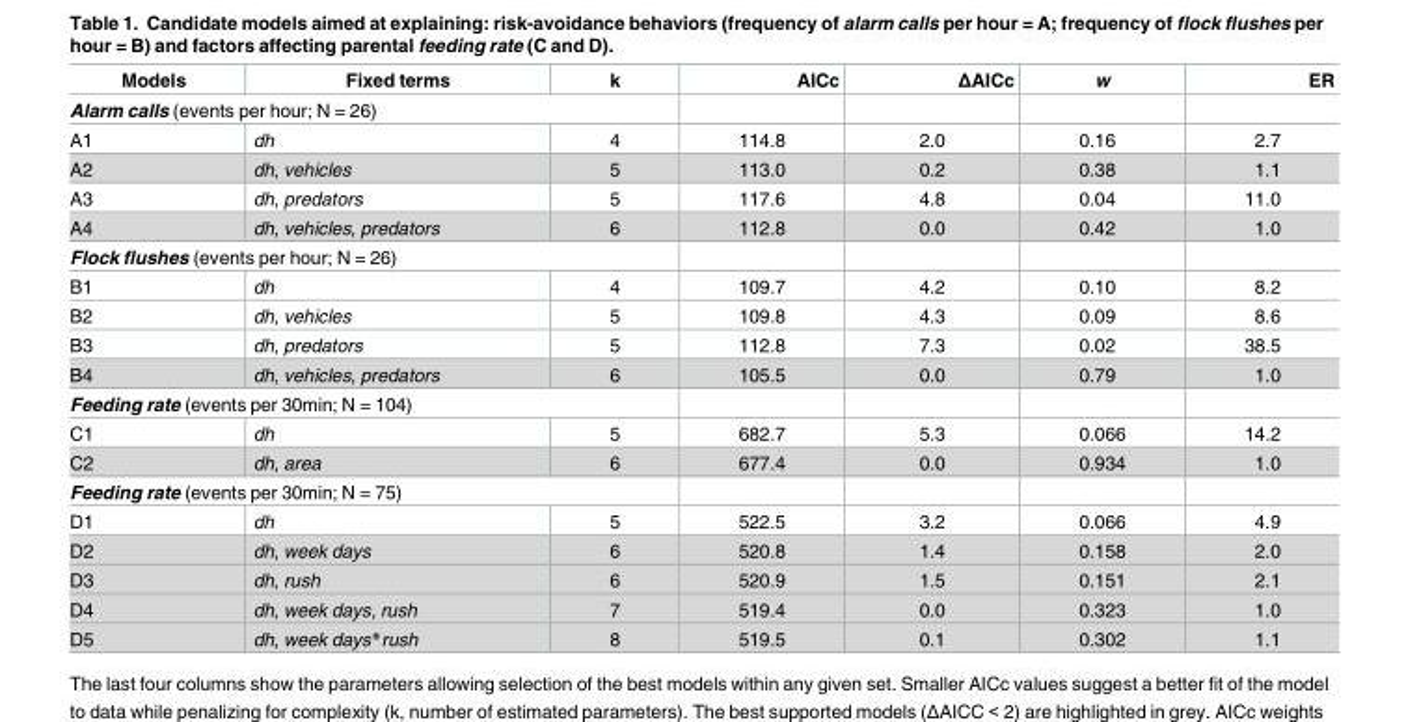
<table><thead><tr><td>Models</td><td>Fixed terms</td><td>k</td><td>AICc</td><td>ΔAICc</td><td>w</td><td>ER</td></tr></thead><tbody><tr><td colspan="7">Alarm calls (events per hour; N = 26)</td></tr><tr><td>A1</td><td>dh</td><td>4</td><td>114.8</td><td>2.0</td><td>0.16</td><td>2.7</td></tr><tr><td>A2</td><td>dh, vehicles</td><td>5</td><td>113.0</td><td>0.2</td><td>0.38</td><td>1.1</td></tr><tr><td>A3</td><td>dh, predators</td><td>5</td><td>117.6</td><td>4.8</td><td>0.04</td><td>11.0</td></tr><tr><td>A4</td><td>dh, vehicles, predators</td><td>6</td><td>112.8</td><td>0.0</td><td>0.42</td><td>1.0</td></tr><tr><td colspan="7">Flock flushes (events per hour; N = 26)</td></tr><tr><td>B1</td><td>dh</td><td>4</td><td>109.7</td><td>4.2</td><td>0.10</td><td>8.2</td></tr><tr><td>B2</td><td>dh, vehicles</td><td>5</td><td>109.8</td><td>4.3</td><td>0.09</td><td>8.6</td></tr><tr><td>B3</td><td>dh, predators</td><td>5</td><td>112.8</td><td>7.3</td><td>0.02</td><td>38.5</td></tr><tr><td>B4</td><td>dh, vehicles, predators</td><td>6</td><td>105.5</td><td>0.0</td><td>0.79</td><td>1.0</td></tr><tr><td colspan="7">Feeding rate (events per 30min; N = 104)</td></tr><tr><td>C1</td><td>dh</td><td>5</td><td>682.7</td><td>5.3</td><td>0.066</td><td>14.2</td></tr><tr><td>C2</td><td>dh, area</td><td>6</td><td>677.4</td><td>0.0</td><td>0.934</td><td>1.0</td></tr><tr><td colspan="7">Feeding rate (events per 30min; N = 75)</td></tr><tr><td>D1</td><td>dh</td><td>5</td><td>522.5</td><td>3.2</td><td>0.066</td><td>4.9</td></tr><tr><td>D2</td><td>dh, week days</td><td>6</td><td>520.8</td><td>1.4</td><td>0.158</td><td>2.0</td></tr><tr><td>D3</td><td>dh, rush</td><td>6</td><td>520.9</td><td>1.5</td><td>0.151</td><td>2.1</td></tr><tr><td>D4</td><td>dh, week days, rush</td><td>7</td><td>519.4</td><td>0.0</td><td>0.323</td><td>1.0</td></tr><tr><td>D5</td><td>dh, week days*rush</td><td>8</td><td>519.5</td><td>0.1</td><td>0.302</td><td>1.1</td></tr></tbody></table>